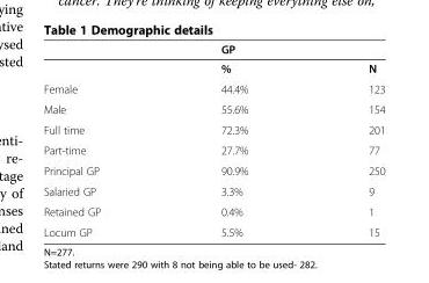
<table><thead><tr><td rowspan="2"></td><td colspan="2">GP</td></tr><tr><td>%</td><td>N</td></tr></thead><tbody><tr><td>Female</td><td>44.4%</td><td>123</td></tr><tr><td>Male</td><td>55.6%</td><td>154</td></tr><tr><td>Full time</td><td>72.3%</td><td>201</td></tr><tr><td>Part-time</td><td>27.7%</td><td>77</td></tr><tr><td>Principal GP</td><td>90.9%</td><td>250</td></tr><tr><td>Salaried GP</td><td>3.3%</td><td>9</td></tr><tr><td>Retained GP</td><td>0.4%</td><td>1</td></tr><tr><td>Locum GP</td><td>5.5%</td><td>15</td></tr></tbody></table>